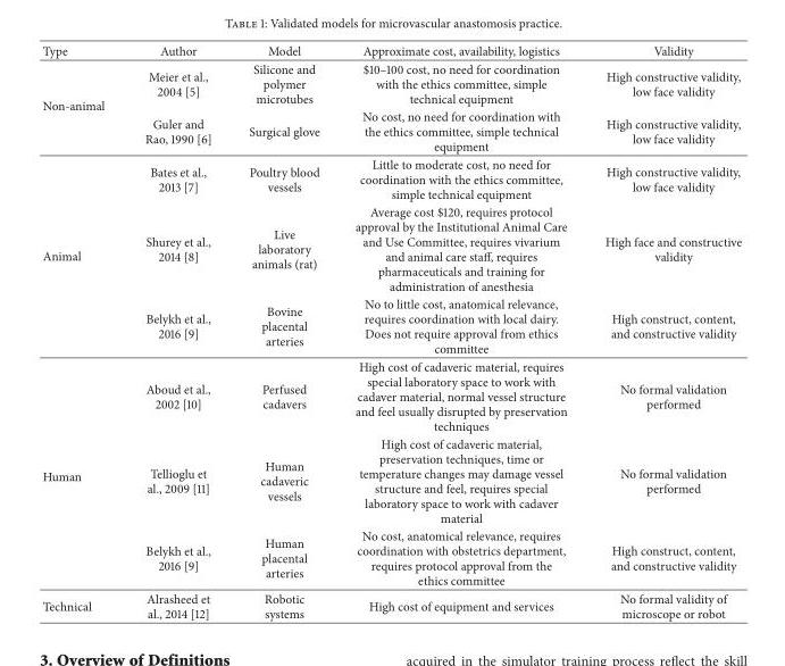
<table><thead><tr><td>Type</td><td>Author</td><td>Model</td><td>Approximate cost, availability, logistics</td><td>Validity</td></tr></thead><tbody><tr><td rowspan="2">Non-animal</td><td>Meier et al., 2004 [5]</td><td>Silicone and polymer microtubes</td><td>$10–100 cost, no need for coordination with the ethics committee, simple technical equipment</td><td>High constructive validity, low face validity</td></tr><tr><td>Guler and Rao, 1990 [6]</td><td>Surgical glove</td><td>No cost, no need for coordination with the ethics committee, simple technical equipment</td><td>High constructive validity, low face validity</td></tr><tr><td rowspan="3">Animal</td><td>Bates et al., 2013 [7]</td><td>Poultry blood vessels</td><td>Little to moderate cost, no need for coordination with the ethics committee, simple technical equipment</td><td>High constructive validity, low face validity</td></tr><tr><td>Shurey et al., 2014 [8]</td><td>Live laboratory animals (rat)</td><td>Average cost $120, requires protocol approval by the Institutional Animal Care and Use Committee, requires vivarium and animal care staff, requires pharmaceuticals and training for administration of anesthesia</td><td>High face and constructive validity</td></tr><tr><td>Belykh et al., 2016 [9]</td><td>Bovine placental arteries</td><td>No to little cost, anatomical relevance, requires coordination with local dairy. Does not require approval from ethics committee</td><td>High construct, content, and constructive validity</td></tr><tr><td rowspan="3">Human</td><td>Aboud et al., 2002 [10]</td><td>Perfused cadavers</td><td>High cost of cadaveric material, requires special laboratory space to work with cadaver material, normal vessel structure and feel usually disrupted by preservation techniques</td><td>No formal validation performed</td></tr><tr><td>Tellioglu et al., 2009 [11]</td><td>Human cadaveric vessels</td><td>High cost of cadaveric material, preservation techniques, time or temperature changes may damage vessel structure and feel, requires special laboratory space to work with cadaver material</td><td>No formal validation performed</td></tr><tr><td>Belykh et al., 2016 [9]</td><td>Human placental arteries</td><td>No cost, anatomical relevance, requires coordination with obstetrics department, requires protocol approval from the ethics committee</td><td>High construct, content, and constructive validity</td></tr><tr><td>Technical</td><td>Alrasheed et al., 2014 [12]</td><td>Robotic systems</td><td>High cost of equipment and services</td><td>No formal validity of microscope or robot</td></tr></tbody></table>